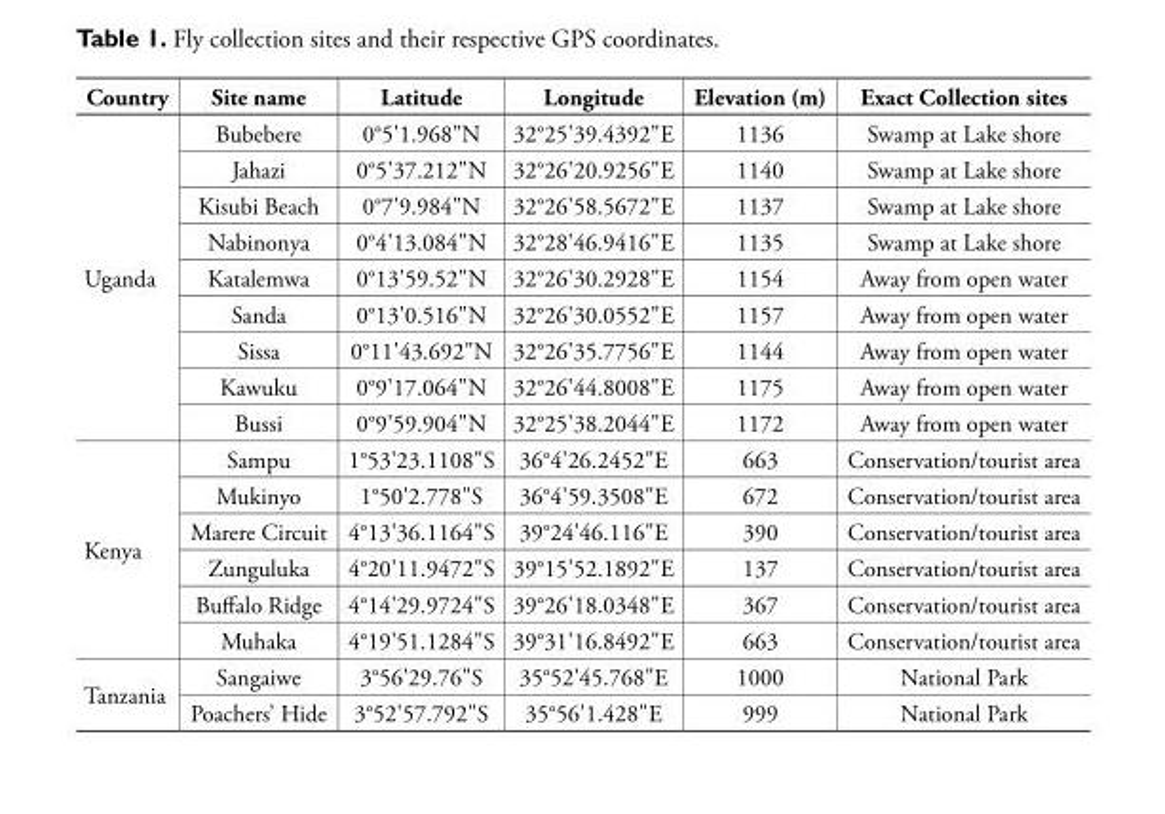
<table><thead><tr><td>Country</td><td>Site name</td><td>Latitude</td><td>Longitude</td><td>Elevation (m)</td><td>Exact Collection sites</td></tr></thead><tbody><tr><td rowspan="9">Uganda</td><td>Bubebere</td><td colspan="2">0°5&#x27;1.968&quot;N 32°25&#x27;39.4392&quot;E</td><td>1136</td><td>Swamp at Lake shore</td></tr><tr><td>Jahazi</td><td colspan="2">0°5&#x27;37.212&quot;N 32°26&#x27;20.9256&quot;E</td><td>1140</td><td>Swamp at Lake shore</td></tr><tr><td>Kisubi Beach</td><td colspan="2">0°7&#x27;9.984&quot;N 32°26&#x27;58.5672&quot;E</td><td>1137</td><td>Swamp at Lake shore</td></tr><tr><td>Nabinonya</td><td colspan="2">0°4&#x27;13.084&quot;N 32°28&#x27;46.9416&quot;E</td><td>1135</td><td>Swamp at Lake shore</td></tr><tr><td>Katalemwa</td><td colspan="2">0°13&#x27;59.52&quot;N 32°26&#x27;30.2928&quot;E</td><td>1154</td><td>Away from open water</td></tr><tr><td>Sanda</td><td colspan="2">0°13&#x27;0.516&quot;N 32°26&#x27;30.0552&quot;E</td><td>1157</td><td>Away from open water</td></tr><tr><td>Sissa</td><td colspan="2">0°11&#x27;43.692&quot;N 32°26&#x27;35.7756&quot;E</td><td>1144</td><td>Away from open water</td></tr><tr><td>Kawuku</td><td colspan="2">0°9&#x27;17.064&quot;N 32°26&#x27;44.8008&quot;E</td><td>1175</td><td>Away from open water</td></tr><tr><td>Bussi</td><td colspan="2">0°9&#x27;59.904&quot;N 32°25&#x27;38.2044&quot;E</td><td>1172</td><td>Away from open water</td></tr><tr><td rowspan="6">Kenya</td><td>Sampu</td><td colspan="2">1°53&#x27;23.1108&quot;S 36°4&#x27;26.2452&quot;E</td><td>663</td><td>Conservation/tourist area</td></tr><tr><td>Mukinyo</td><td colspan="2">1°50&#x27;2.778&quot;S 36°4&#x27;59.3508&quot;E</td><td>672</td><td>Conservation/tourist area</td></tr><tr><td>Marere Circuit</td><td colspan="2">4°13&#x27;36.1164&quot;S 39°24&#x27;46.116&quot;E</td><td>390</td><td>Conservation/tourist area</td></tr><tr><td>Zunguluka</td><td colspan="2">4°20&#x27;11.9472&quot;S 39°15&#x27;52.1892&quot;E</td><td>137</td><td>Conservation/tourist area</td></tr><tr><td>Buffalo Ridge</td><td colspan="2">4°14&#x27;29.9724&quot;S 39°26&#x27;18.0348&quot;E</td><td>367</td><td>Conservation/tourist area</td></tr><tr><td>Muhaka</td><td colspan="2">4°19&#x27;51.1284&quot;S 39°31&#x27;16.8492&quot;E</td><td>663</td><td>Conservation/tourist area</td></tr><tr><td rowspan="2">Tanzania</td><td>Sangaiwe</td><td colspan="2">3°56&#x27;29.76&quot;S 35°52&#x27;45.768&quot;E</td><td>1000</td><td>National Park</td></tr><tr><td>Poachers’ Hide</td><td colspan="2">3°52&#x27;57.792&quot;S 35°56&#x27;1.428&quot;E</td><td>999</td><td>National Park</td></tr></tbody></table>